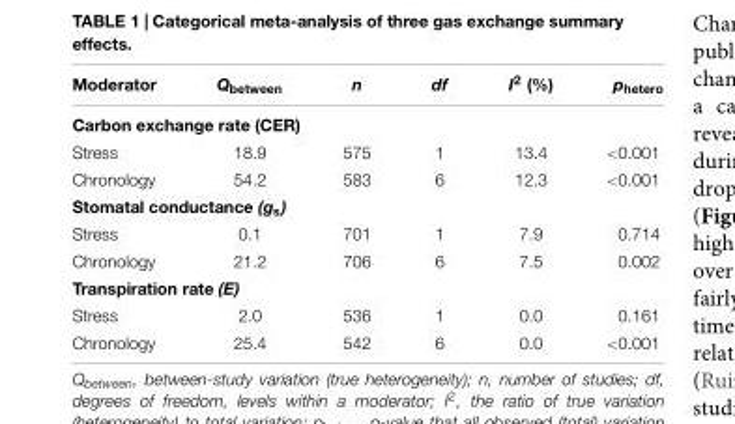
<table><thead><tr><td>Moderator</td><td>Q<sub>between</sub></td><td>n</td><td>df</td><td>I<sup>2</sup> (%)</td><td>p<sub>hetero</sub></td></tr></thead><tbody><tr><td colspan="6">Carbon exchange rate (CER)</td></tr><tr><td>Stress</td><td>18.9</td><td>575</td><td>1</td><td>13.4</td><td>&lt;0.001</td></tr><tr><td>Chronology</td><td>54.2</td><td>583</td><td>6</td><td>12.3</td><td>&lt;0.001</td></tr><tr><td colspan="6">Stomatal conductance (g<sub>s</sub>)</td></tr><tr><td>Stress</td><td>0.1</td><td>701</td><td>1</td><td>7.9</td><td>0.714</td></tr><tr><td>Chronology</td><td>21.2</td><td>706</td><td>6</td><td>7.5</td><td>0.002</td></tr><tr><td colspan="6">Transpiration rate (E)</td></tr><tr><td>Stress</td><td>2.0</td><td>536</td><td>1</td><td>0.0</td><td>0.161</td></tr><tr><td>Chronology</td><td>25.4</td><td>542</td><td>6</td><td>0.0</td><td>&lt;0.001</td></tr></tbody></table>